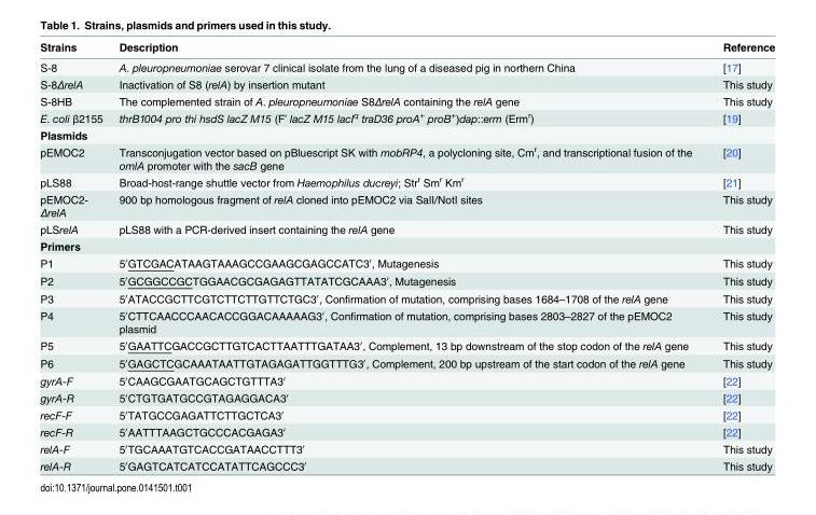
<table><thead><tr><td>Strains</td><td>Description</td><td>Reference</td></tr></thead><tbody><tr><td>S-8</td><td>A. pleuropneumoniae serovar 7 clinical isolate from the lung of a diseased pig in northern China</td><td>[17]</td></tr><tr><td>S-8ΔrelA</td><td>Inactivation of S8 (relA) by insertion mutant</td><td>This study</td></tr><tr><td>S-8HB</td><td>The complemented strain of A. pleuropneumoniae S8ΔrelA containing the relA gene</td><td>This study</td></tr><tr><td>E. coli β2155</td><td>thrB1004 pro thi hsdS lacZ M15 (F’ lacZ M15 lacI<sup>q</sup> traD36 proA<sup>+</sup> proB<sup>+</sup>)dap::erm (Erm<sup>r</sup>)</td><td>[19]</td></tr><tr><td colspan="3">Plasmids</td></tr><tr><td>pEMOC2</td><td>Transconjugation vector based on pBluescript SK with mobRP4, a polycloning site, Cm<sup>r</sup>, and transcriptional fusion of the omlA promoter with the sacB gene</td><td>[20]</td></tr><tr><td>pLS88</td><td>Broad-host-range shuttle vector from Haemophilus ducreyi; Str<sup>r</sup> Sm<sup>r</sup> Km<sup>r</sup></td><td>[21]</td></tr><tr><td>pEMOC2- ΔrelA</td><td>900 bp homologous fragment of relA cloned into pEMOC2 via SalI/NotI sites</td><td>This study</td></tr><tr><td>pLSrelA</td><td>pLS88 with a PCR-derived insert containing the relA gene</td><td>This study</td></tr><tr><td colspan="3">Primers</td></tr><tr><td>P1</td><td>5′GTCGACATAAGTAAAGCCGAAGCGAGCCATC3′, Mutagenesis</td><td>This study</td></tr><tr><td>P2</td><td>5′GCGGCCGCTGGAACGCGAGAGTTATATCGCAAA3′, Mutagenesis</td><td>This study</td></tr><tr><td>P3</td><td>5′ATACCGCTTCGTCTTCTTGTTCTGC3′, Confirmation of mutation, comprising bases 1684–1708 of the relA gene</td><td>This study</td></tr><tr><td>P4</td><td>5′CTTCAACCCAACACCGGACAAAAAG3′, Confirmation of mutation, comprising bases 2803–2827 of the pEMOC2 plasmid</td><td>This study</td></tr><tr><td>P5</td><td>5′GAATTCGACCGCTTGTCACTTAATTTGATAA3′, Complement, 13 bp downstream of the stop codon of the relA gene</td><td>This study</td></tr><tr><td>P6</td><td>5′GAGCTCGCAAATAATTGTAGAGATTGGTTTG3′, Complement, 200 bp upstream of the start codon of the relA gene</td><td>This study</td></tr><tr><td>gyrA-F</td><td>5′CAAGCGAATGCAGCTGTTTA3′</td><td>[22]</td></tr><tr><td>gyrA-R</td><td>5′CTGTGATGCCGTAGAGGACA3′</td><td>[22]</td></tr><tr><td>recF-F</td><td>5′TATGCCGAGATTCTTGCTCA3′</td><td>[22]</td></tr><tr><td>recF-R</td><td>5′AATTTAAGCTGCCCACGAGA3′</td><td>[22]</td></tr><tr><td>relA-F</td><td>5′TGCAAATGTCACCGATAACCTTT3′</td><td>This study</td></tr><tr><td>relA-R</td><td>5′GAGTCATCATCCATATTCAGCCC3′</td><td>This study</td></tr></tbody></table>